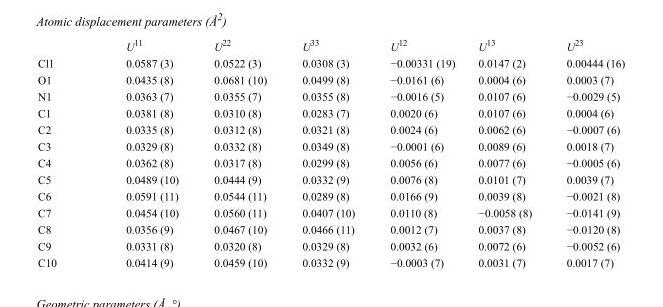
<table><thead><tr><td></td><td>U<sup>11</sup></td><td>U<sup>22</sup></td><td>U<sup>33</sup></td><td>U<sup>12</sup></td><td>U<sup>13</sup></td><td>U<sup>23</sup></td></tr></thead><tbody><tr><td>Cl1</td><td>0.0587 (3)</td><td>0.0522 (3)</td><td>0.0308 (3)</td><td>−0.00331 (19)</td><td>0.0147 (2)</td><td>0.00444 (16)</td></tr><tr><td>O1</td><td>0.0435 (8)</td><td>0.0681 (10)</td><td>0.0499 (8)</td><td>−0.0161 (6)</td><td>0.0004 (6)</td><td>0.0003 (7)</td></tr><tr><td>N1</td><td>0.0363 (7)</td><td>0.0355 (7)</td><td>0.0355 (8)</td><td>−0.0016 (5)</td><td>0.0107 (6)</td><td>−0.0029 (5)</td></tr><tr><td>C1</td><td>0.0381 (8)</td><td>0.0310 (8)</td><td>0.0283 (7)</td><td>0.0020 (6)</td><td>0.0107 (6)</td><td>0.0004 (6)</td></tr><tr><td>C2</td><td>0.0335 (8)</td><td>0.0312 (8)</td><td>0.0321 (8)</td><td>0.0024 (6)</td><td>0.0062 (6)</td><td>−0.0007 (6)</td></tr><tr><td>C3</td><td>0.0329 (8)</td><td>0.0332 (8)</td><td>0.0349 (8)</td><td>−0.0001 (6)</td><td>0.0089 (6)</td><td>0.0018 (7)</td></tr><tr><td>C4</td><td>0.0362 (8)</td><td>0.0317 (8)</td><td>0.0299 (8)</td><td>0.0056 (6)</td><td>0.0077 (6)</td><td>−0.0005 (6)</td></tr><tr><td>C5</td><td>0.0489 (10)</td><td>0.0444 (9)</td><td>0.0332 (9)</td><td>0.0076 (8)</td><td>0.0101 (7)</td><td>0.0039 (7)</td></tr><tr><td>C6</td><td>0.0591 (11)</td><td>0.0544 (11)</td><td>0.0289 (8)</td><td>0.0166 (9)</td><td>0.0039 (8)</td><td>−0.0021 (8)</td></tr><tr><td>C7</td><td>0.0454 (10)</td><td>0.0560 (11)</td><td>0.0407 (10)</td><td>0.0110 (8)</td><td>−0.0058 (8)</td><td>−0.0141 (9)</td></tr><tr><td>C8</td><td>0.0356 (9)</td><td>0.0467 (10)</td><td>0.0466 (11)</td><td>0.0012 (7)</td><td>0.0037 (8)</td><td>−0.0120 (8)</td></tr><tr><td>C9</td><td>0.0331 (8)</td><td>0.0320 (8)</td><td>0.0329 (8)</td><td>0.0032 (6)</td><td>0.0072 (6)</td><td>−0.0052 (6)</td></tr><tr><td>C10</td><td>0.0414 (9)</td><td>0.0459 (10)</td><td>0.0332 (9)</td><td>−0.0003 (7)</td><td>0.0031 (7)</td><td>0.0017 (7)</td></tr></tbody></table>